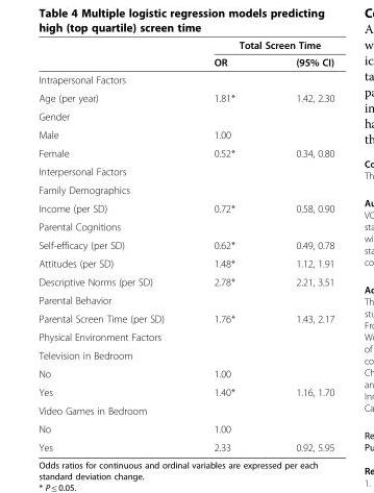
<table><thead><tr><td rowspan="2"></td><td colspan="2">Total Screen Time</td></tr><tr><td>OR</td><td>(95% CI)</td></tr></thead><tbody><tr><td colspan="3">Intrapersonal Factors</td></tr><tr><td>Age (per year)</td><td>1.81*</td><td>1.42, 2.30</td></tr><tr><td colspan="3">Gender</td></tr><tr><td>Male</td><td>1.00</td><td></td></tr><tr><td>Female</td><td>0.52*</td><td>0.34, 0.80</td></tr><tr><td colspan="3">Interpersonal Factors</td></tr><tr><td colspan="3">Family Demographics</td></tr><tr><td>Income (per SD)</td><td>0.72*</td><td>0.58, 0.90</td></tr><tr><td colspan="3">Parental Cognitions</td></tr><tr><td>Self-efficacy (per SD)</td><td>0.62*</td><td>0.49, 0.78</td></tr><tr><td>Attitudes (per SD)</td><td>1.48*</td><td>1.12, 1.91</td></tr><tr><td>Descriptive Norms (per SD)</td><td>2.78*</td><td>2.21, 3.51</td></tr><tr><td colspan="3">Parental Behavior</td></tr><tr><td>Parental Screen Time (per SD)</td><td>1.76*</td><td>1.43, 2.17</td></tr><tr><td colspan="3">Physical Environment Factors</td></tr><tr><td colspan="3">Television in Bedroom</td></tr><tr><td>No</td><td>1.00</td><td></td></tr><tr><td>Yes</td><td>1.40*</td><td>1.16, 1.70</td></tr><tr><td colspan="3">Video Games in Bedroom</td></tr><tr><td>No</td><td>1.00</td><td></td></tr><tr><td>Yes</td><td>2.33</td><td>0.92, 5.95</td></tr></tbody></table>